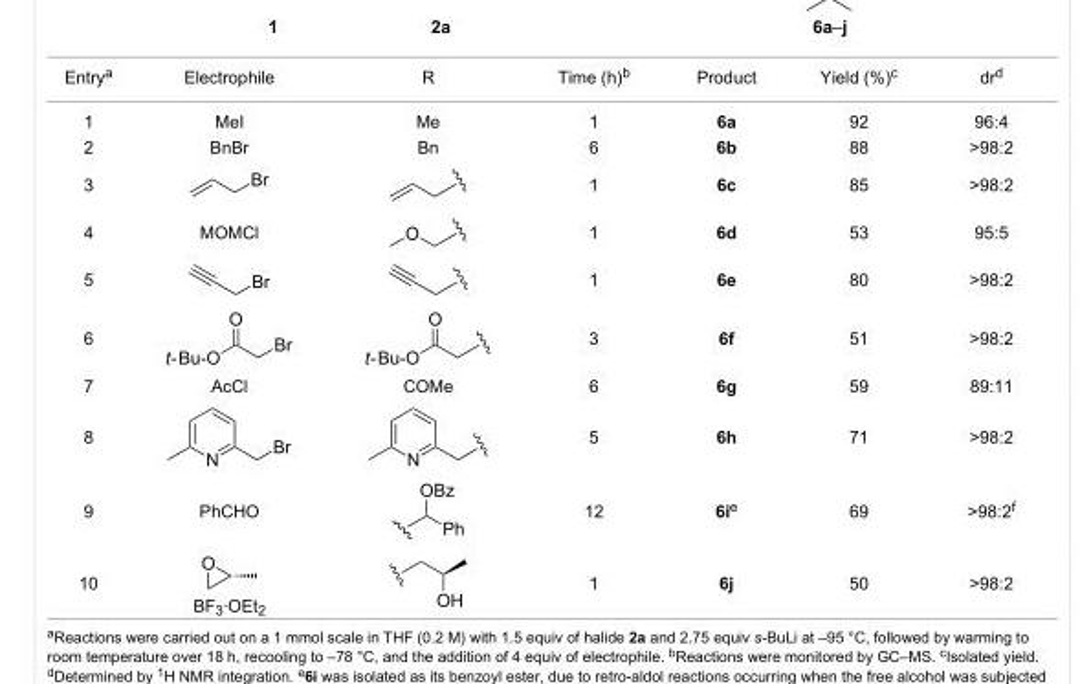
<table><tbody><tr><td>Entry<sup>a</sup></td><td>Electrophile</td><td>R</td><td>Time (h)<sup>b</sup></td><td>Product</td><td>Yield (%)<sup>c</sup></td><td>dr<sup>d</sup></td></tr><tr><td>1</td><td>MeI</td><td>Me</td><td>1</td><td>6a</td><td>92</td><td>96:4</td></tr><tr><td>2</td><td>BnBr</td><td>Bn</td><td>6</td><td>6b</td><td>88</td><td>&gt;98:2</td></tr><tr><td>3</td><td></td><td></td><td>1</td><td>6c</td><td>85</td><td>&gt;98:2</td></tr><tr><td>4</td><td>MOMCl</td><td></td><td>1</td><td>6d</td><td>53</td><td>95:5</td></tr><tr><td>5</td><td></td><td></td><td>1</td><td>6e</td><td>80</td><td>&gt;98:2</td></tr><tr><td>6</td><td></td><td></td><td>3</td><td>6f</td><td>51</td><td>&gt;98:2</td></tr><tr><td>7</td><td>AcCl</td><td>COMe</td><td>6</td><td>6g</td><td>59</td><td>89:11</td></tr><tr><td>8</td><td></td><td></td><td>5</td><td>6h</td><td>71</td><td>&gt;98:2</td></tr><tr><td>9</td><td>PhCHO</td><td></td><td>12</td><td>6i<sup>e</sup></td><td>69</td><td>&gt;98:2<sup>f</sup></td></tr><tr><td>10</td><td>BF<sub>3</sub>·OEt<sub>2</sub></td><td></td><td>1</td><td>6j</td><td>50</td><td>&gt;98:2</td></tr></tbody></table>